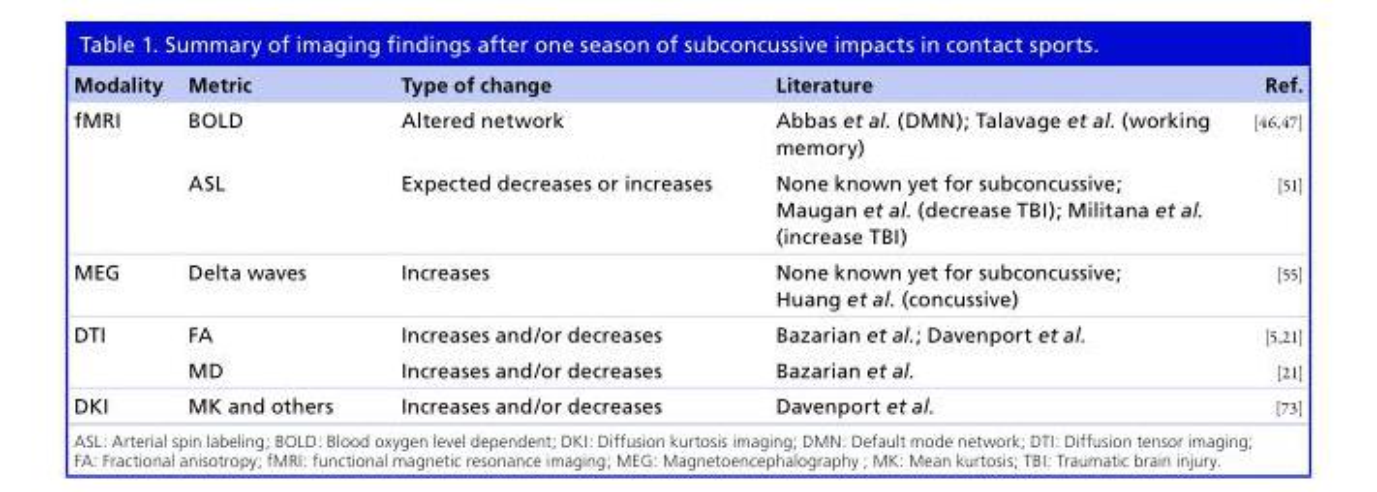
<table><thead><tr><td>Modality</td><td>Metric</td><td>Type of change</td><td>Literature</td><td>Ref.</td></tr></thead><tbody><tr><td rowspan="2">fMRI</td><td>BOLD</td><td>Altered network</td><td>Abbas et al. (DMN); Talavage et al. (working memory)</td><td>[46,47]</td></tr><tr><td>ASL</td><td>Expected decreases or increases</td><td>None known yet for subconcussive; Maugan et al. (decrease TBI); Militana et al. (increase TBI)</td><td>[51]</td></tr><tr><td>MEG</td><td>Delta waves</td><td>Increases</td><td>None known yet for subconcussive; Huang et al. (concussive)</td><td>[55]</td></tr><tr><td rowspan="2">DTI</td><td>FA</td><td>Increases and/or decreases</td><td>Bazarian et al.; Davenport et al.</td><td>[5,21]</td></tr><tr><td>MD</td><td>Increases and/or decreases</td><td>Bazarian et al.</td><td>[21]</td></tr><tr><td>DKI</td><td>MK and others</td><td>Increases and/or decreases</td><td>Davenport et al.</td><td>[73]</td></tr></tbody></table>